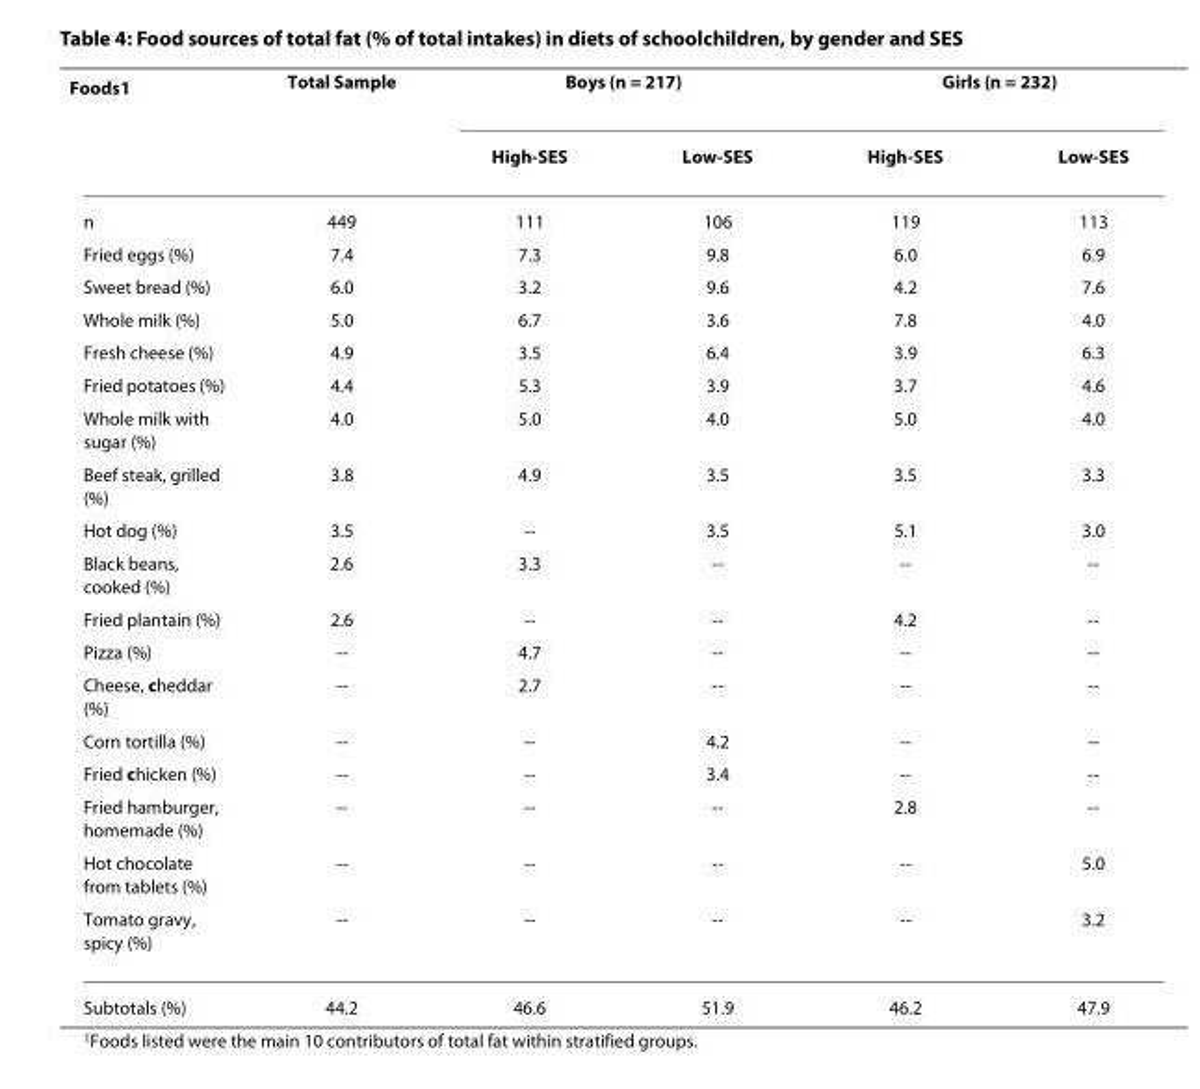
<table><thead><tr><td rowspan="2">Foods<sup>1</sup></td><td rowspan="2">Total Sample</td><td colspan="2">Boys (n = 217)</td><td colspan="2">Girls (n = 232)</td></tr><tr><td>High-SES</td><td>Low-SES</td><td>High-SES</td><td>Low-SES</td></tr></thead><tbody><tr><td>n</td><td>449</td><td>111</td><td>106</td><td>119</td><td>113</td></tr><tr><td>Fried eggs (%)</td><td>7.4</td><td>7.3</td><td>9.8</td><td>6.0</td><td>6.9</td></tr><tr><td>Sweet bread (%)</td><td>6.0</td><td>3.2</td><td>9.6</td><td>4.2</td><td>7.6</td></tr><tr><td>Whole milk (%)</td><td>5.0</td><td>6.7</td><td>3.6</td><td>7.8</td><td>4.0</td></tr><tr><td>Fresh cheese (%)</td><td>4.9</td><td>3.5</td><td>6.4</td><td>3.9</td><td>6.3</td></tr><tr><td>Fried potatoes (%)</td><td>4.4</td><td>5.3</td><td>3.9</td><td>3.7</td><td>4.6</td></tr><tr><td>Whole milk with sugar (%)</td><td>4.0</td><td>5.0</td><td>4.0</td><td>5.0</td><td>4.0</td></tr><tr><td>Beef steak, grilled (%)</td><td>3.8</td><td>4.9</td><td>3.5</td><td>3.5</td><td>3.3</td></tr><tr><td>Hot dog (%)</td><td>3.5</td><td>--</td><td>3.5</td><td>5.1</td><td>3.0</td></tr><tr><td>Black beans, cooked (%)</td><td>2.6</td><td>3.3</td><td>--</td><td>--</td><td>--</td></tr><tr><td>Fried plantain (%)</td><td>2.6</td><td>--</td><td>--</td><td>4.2</td><td>--</td></tr><tr><td>Pizza (%)</td><td>--</td><td>4.7</td><td>--</td><td>--</td><td>--</td></tr><tr><td>Cheese, cheddar (%)</td><td>--</td><td>2.7</td><td>--</td><td>--</td><td>--</td></tr><tr><td>Corn tortilla (%)</td><td>--</td><td>--</td><td>4.2</td><td>--</td><td>--</td></tr><tr><td>Fried chicken (%)</td><td>--</td><td>--</td><td>3.4</td><td>--</td><td>--</td></tr><tr><td>Fried hamburger, homemade (%)</td><td>--</td><td>--</td><td>--</td><td>2.8</td><td>--</td></tr><tr><td>Hot chocolate from tablets (%)</td><td>--</td><td>--</td><td>--</td><td>--</td><td>5.0</td></tr><tr><td>Tomato gravy, spicy (%)</td><td>--</td><td>--</td><td>--</td><td>--</td><td>3.2</td></tr><tr><td>Subtotals (%)</td><td>44.2</td><td>46.6</td><td>51.9</td><td>46.2</td><td>47.9</td></tr></tbody></table>